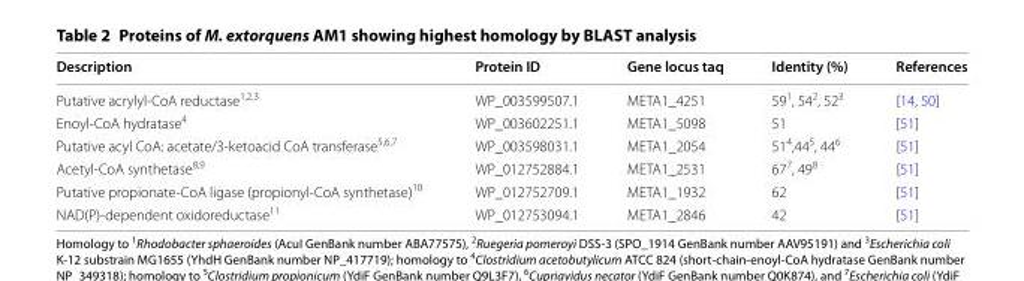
<table><thead><tr><td>Description</td><td>Protein ID</td><td>Gene locus taq</td><td>Identity (%)</td><td>References</td></tr></thead><tbody><tr><td>Putative acrylyl‑CoA reductase<sup>1,2,3</sup></td><td>WP_003599507.1</td><td>META1_4251</td><td>59<sup>1</sup>, 54<sup>2</sup>, 52<sup>3</sup></td><td>[14, 50]</td></tr><tr><td>Enoyl‑CoA hydratase<sup>4</sup></td><td>WP_003602251.1</td><td>META1_5098</td><td>51</td><td>[51]</td></tr><tr><td>Putative acyl CoA: acetate/3‑ketoacid CoA transferase<sup>5,6,7</sup></td><td>WP_003598031.1</td><td>META1_2054</td><td>51<sup>4</sup>,44<sup>5</sup>, 44<sup>6</sup></td><td>[51]</td></tr><tr><td>Acetyl‑CoA synthetase<sup>8,9</sup></td><td>WP_012752884.1</td><td>META1_2531</td><td>67<sup>7</sup>, 49<sup>8</sup></td><td>[51]</td></tr><tr><td>Putative propionate‑CoA ligase (propionyl‑CoA synthetase)<sup>10</sup></td><td>WP_012752709.1</td><td>META1_1932</td><td>62</td><td>[51]</td></tr><tr><td>NAD(P)‑dependent oxidoreductase<sup>11</sup></td><td>WP_012753094.1</td><td>META1_2846</td><td>42</td><td>[51]</td></tr></tbody></table>